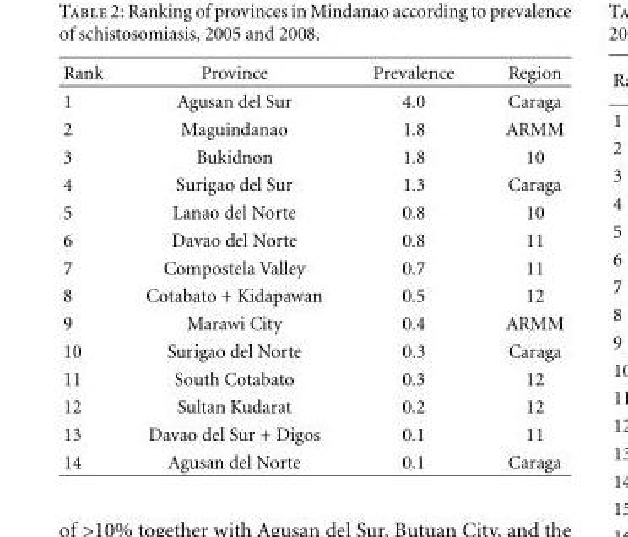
<table><thead><tr><td>Rank</td><td>Province</td><td>Prevalence</td><td>Region</td></tr></thead><tbody><tr><td>1</td><td>Agusan del Sur</td><td>4.0</td><td>Caraga</td></tr><tr><td>2</td><td>Maguindanao</td><td>1.8</td><td>ARMM</td></tr><tr><td>3</td><td>Bukidnon</td><td>1.8</td><td>10</td></tr><tr><td>4</td><td>Surigao del Sur</td><td>1.3</td><td>Caraga</td></tr><tr><td>5</td><td>Lanao del Norte</td><td>0.8</td><td>10</td></tr><tr><td>6</td><td>Davao del Norte</td><td>0.8</td><td>11</td></tr><tr><td>7</td><td>Compostela Valley</td><td>0.7</td><td>11</td></tr><tr><td>8</td><td>Cotabato + Kidapawan</td><td>0.5</td><td>12</td></tr><tr><td>9</td><td>Marawi City</td><td>0.4</td><td>ARMM</td></tr><tr><td>10</td><td>Surigao del Norte</td><td>0.3</td><td>Caraga</td></tr><tr><td>11</td><td>South Cotabato</td><td>0.3</td><td>12</td></tr><tr><td>12</td><td>Sultan Kudarat</td><td>0.2</td><td>12</td></tr><tr><td>13</td><td>Davao del Sur + Digos</td><td>0.1</td><td>11</td></tr><tr><td>14</td><td>Agusan del Norte</td><td>0.1</td><td>Caraga</td></tr></tbody></table>